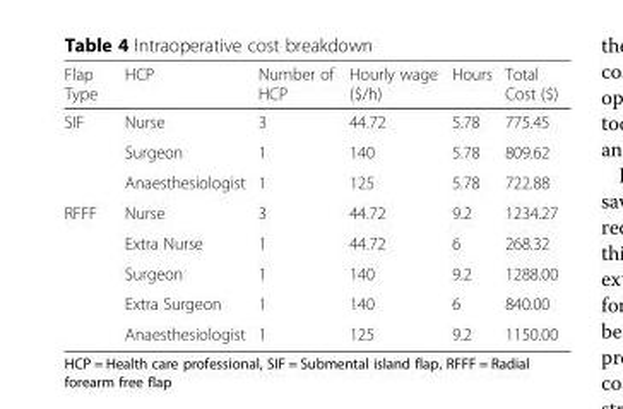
<table><thead><tr><td>Flap Type</td><td>HCP</td><td>Number of HCP</td><td>Hourly wage ($/h)</td><td>Hours</td><td>Total Cost ($)</td></tr></thead><tbody><tr><td rowspan="3">SIF</td><td>Nurse</td><td>3</td><td>44.72</td><td>5.78</td><td>775.45</td></tr><tr><td>Surgeon</td><td>1</td><td>140</td><td>5.78</td><td>809.62</td></tr><tr><td>Anaesthesiologist</td><td>1</td><td>125</td><td>5.78</td><td>722.88</td></tr><tr><td rowspan="5">RFFF</td><td>Nurse</td><td>3</td><td>44.72</td><td>9.2</td><td>1234.27</td></tr><tr><td>Extra Nurse</td><td>1</td><td>44.72</td><td>6</td><td>268.32</td></tr><tr><td>Surgeon</td><td>1</td><td>140</td><td>9.2</td><td>1288.00</td></tr><tr><td>Extra Surgeon</td><td>1</td><td>140</td><td>6</td><td>840.00</td></tr><tr><td>Anaesthesiologist</td><td>1</td><td>125</td><td>9.2</td><td>1150.00</td></tr></tbody></table>